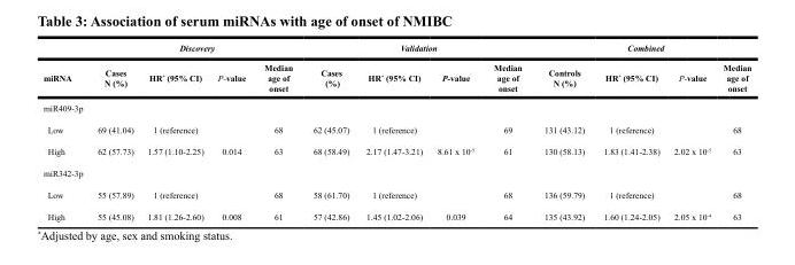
<table><thead><tr><td colspan="6">Discovery</td><td colspan="2">Validation</td><td colspan="5">Combined</td></tr><tr><td>miRNA</td><td>Cases N (%)</td><td>HR* (95% CI)</td><td>P-value</td><td>Median age of onset</td><td>Cases (%)</td><td>HR* (95% CI)</td><td>P-value</td><td>Median age of onset</td><td>Controls N (%)</td><td>HR* (95% CI)</td><td>P-value</td><td>Median age of onset</td></tr></thead><tbody><tr><td colspan="13">miR409-3p</td></tr><tr><td>Low</td><td>69 (41.04)</td><td>1 (reference)</td><td></td><td>68</td><td>62 (45.07)</td><td>1 (reference)</td><td></td><td>69</td><td>131 (43.12)</td><td>1 (reference)</td><td></td><td>68</td></tr><tr><td>High</td><td>62 (57.73)</td><td>1.57 (1.10-2.25)</td><td>0.014</td><td>63</td><td>68 (58.49)</td><td>2.17 (1.47-3.21)</td><td>8.61 x 10<sup>-5</sup></td><td>61</td><td>130 (58.13)</td><td>1.83 (1.41-2.38)</td><td>2.02 x 10<sup>-5</sup></td><td>63</td></tr><tr><td colspan="13">miR342-3p</td></tr><tr><td>Low</td><td>55 (57.89)</td><td>1 (reference)</td><td></td><td>68</td><td>58 (61.70)</td><td>1 (reference)</td><td></td><td>68</td><td>136 (59.79)</td><td>1 (reference)</td><td></td><td>68</td></tr><tr><td>High</td><td>55 (45.08)</td><td>1.81 (1.26-2.60)</td><td>0.008</td><td>61</td><td>57 (42.86)</td><td>1.45 (1.02-2.06)</td><td>0.039</td><td>64</td><td>135 (43.92)</td><td>1.60 (1.24-2.05)</td><td>2.05 x 10<sup>-4</sup></td><td>63</td></tr></tbody></table>